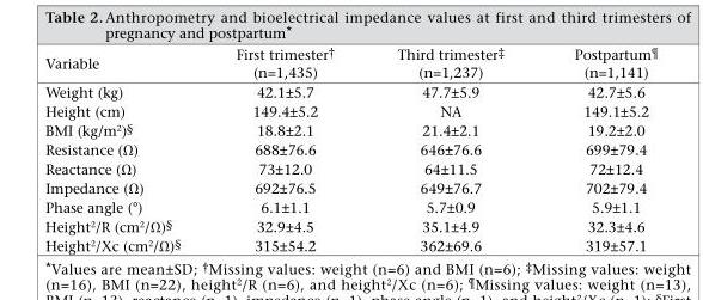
<table><thead><tr><td>Variable</td><td>First trimester† (n=1,435)</td><td>Third trimester‡ (n=1,237)</td><td>Postpartum¶ (n=1,141)</td></tr></thead><tbody><tr><td>Weight (kg)</td><td>42.1±5.7</td><td>47.7±5.9</td><td>42.7±5.6</td></tr><tr><td>Height (cm)</td><td>149.4±5.2</td><td>NA</td><td>149.1±5.2</td></tr><tr><td>BMI (kg/m<sup>2</sup>)§</td><td>18.8±2.1</td><td>21.4±2.1</td><td>19.2±2.0</td></tr><tr><td>Resistance (Ω)</td><td>688±76.6</td><td>646±76.6</td><td>699±79.4</td></tr><tr><td>Reactance (Ω)</td><td>73±12.0</td><td>64±11.5</td><td>72±12.4</td></tr><tr><td>Impedance (Ω)</td><td>692±76.5</td><td>649±76.7</td><td>702±79.4</td></tr><tr><td>Phase angle (°)</td><td>6.1±1.1</td><td>5.7±0.9</td><td>5.9±1.1</td></tr><tr><td>Height<sup>2</sup>/R (cm<sup>2</sup>/Ω)§</td><td>32.9±4.5</td><td>35.1±4.9</td><td>32.3±4.6</td></tr><tr><td>Height<sup>2</sup>/Xc (cm<sup>2</sup>/Ω)§</td><td>315±54.2</td><td>362±69.6</td><td>319±57.1</td></tr></tbody></table>